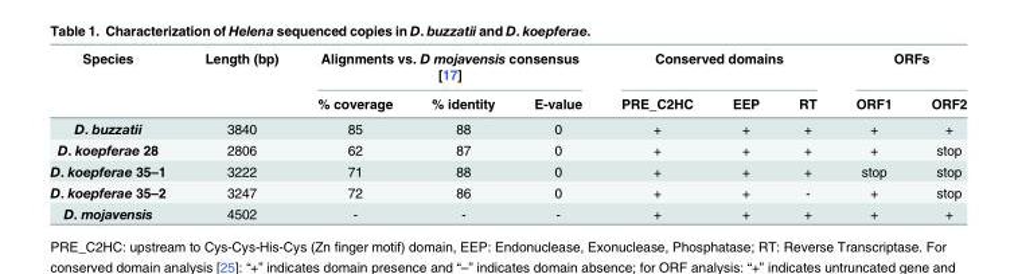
<table><thead><tr><td rowspan="2">Species</td><td rowspan="2">Length (bp)</td><td colspan="3">Alignments vs. D mojavensis consensus [17]</td><td colspan="3">Conserved domains</td><td colspan="2">ORFs</td></tr><tr><td>% coverage</td><td>% identity</td><td>E-value</td><td>PRE_C2HC</td><td>EEP</td><td>RT</td><td>ORF1</td><td>ORF2</td></tr></thead><tbody><tr><td>D. buzzatii</td><td>3840</td><td>85</td><td>88</td><td>0</td><td>+</td><td>+</td><td>+</td><td>+</td><td>+</td></tr><tr><td>D. koepferae 28</td><td>2806</td><td>62</td><td>87</td><td>0</td><td>+</td><td>+</td><td>+</td><td>+</td><td>stop</td></tr><tr><td>D. koepferae 35–1</td><td>3222</td><td>71</td><td>88</td><td>0</td><td>+</td><td>+</td><td>+</td><td>stop</td><td>stop</td></tr><tr><td>D. koepferae 35–2</td><td>3247</td><td>72</td><td>86</td><td>0</td><td>+</td><td>+</td><td>-</td><td>+</td><td>stop</td></tr><tr><td>D. mojavensis</td><td>4502</td><td>-</td><td>-</td><td>-</td><td>+</td><td>+</td><td>+</td><td>+</td><td>+</td></tr></tbody></table>